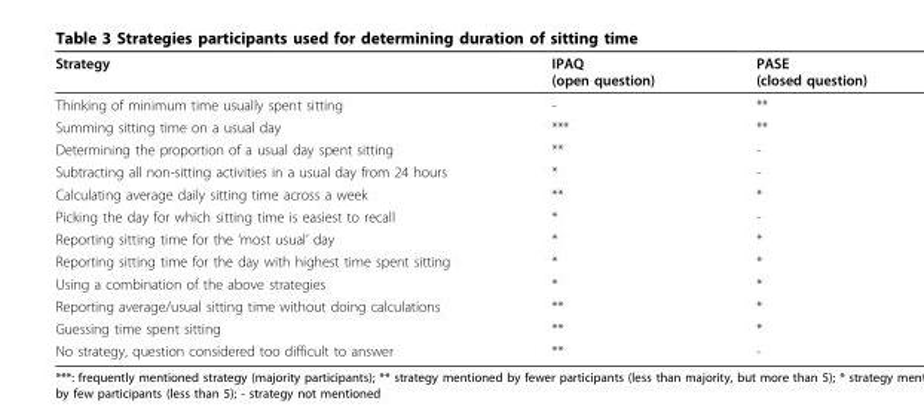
<table><thead><tr><td>Strategy</td><td>IPAQ (open question)</td><td>PASE (closed question)</td></tr></thead><tbody><tr><td>Thinking of minimum time usually spent sitting</td><td>-</td><td>**</td></tr><tr><td>Summing sitting time on a usual day</td><td>***</td><td>**</td></tr><tr><td>Determining the proportion of a usual day spent sitting</td><td>**</td><td>-</td></tr><tr><td>Subtracting all non-sitting activities in a usual day from 24 hours</td><td>*</td><td>-</td></tr><tr><td>Calculating average daily sitting time across a week</td><td>**</td><td>*</td></tr><tr><td>Picking the day for which sitting time is easiest to recall</td><td>*</td><td>-</td></tr><tr><td>Reporting sitting time for the ‘most usual’ day</td><td>*</td><td>*</td></tr><tr><td>Reporting sitting time for the day with highest time spent sitting</td><td>*</td><td>*</td></tr><tr><td>Using a combination of the above strategies</td><td>*</td><td>*</td></tr><tr><td>Reporting average/usual sitting time without doing calculations</td><td>**</td><td>*</td></tr><tr><td>Guessing time spent sitting</td><td>**</td><td>*</td></tr><tr><td>No strategy, question considered too difficult to answer</td><td>**</td><td>-</td></tr></tbody></table>